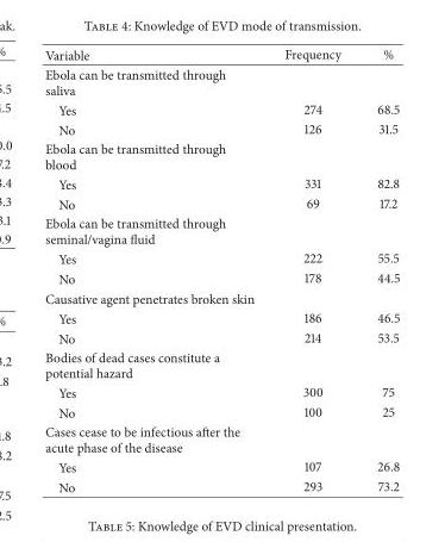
<table><thead><tr><td>Variable</td><td>Frequency</td><td>%</td></tr></thead><tbody><tr><td colspan="3">Ebola can be transmitted through saliva</td></tr><tr><td>Yes</td><td>274</td><td>68.5</td></tr><tr><td>No</td><td>126</td><td>31.5</td></tr><tr><td colspan="3">Ebola can be transmitted through blood</td></tr><tr><td>Yes</td><td>331</td><td>82.8</td></tr><tr><td>No</td><td>69</td><td>17.2</td></tr><tr><td colspan="3">Ebola can be transmitted through seminal/vagina fluid</td></tr><tr><td>Yes</td><td>222</td><td>55.5</td></tr><tr><td>No</td><td>178</td><td>44.5</td></tr><tr><td colspan="3">Causative agent penetrates broken skin</td></tr><tr><td>Yes</td><td>186</td><td>46.5</td></tr><tr><td>No</td><td>214</td><td>53.5</td></tr><tr><td colspan="3">Bodies of dead cases constitute a potential hazard</td></tr><tr><td>Yes</td><td>300</td><td>75</td></tr><tr><td>No</td><td>100</td><td>25</td></tr><tr><td colspan="3">Cases cease to be infectious after the acute phase of the disease</td></tr><tr><td>Yes</td><td>107</td><td>26.8</td></tr><tr><td>No</td><td>293</td><td>73.2</td></tr></tbody></table>